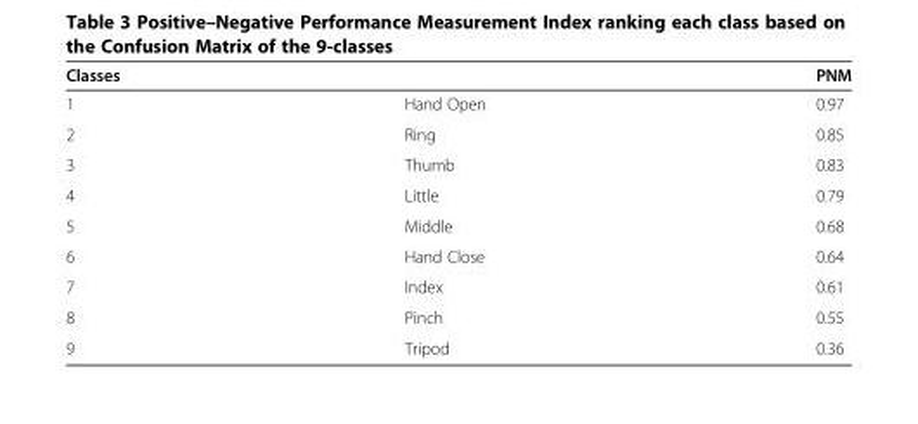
<table><thead><tr><td colspan="2">Classes</td><td rowspan="2">PNM 0.97</td></tr><tr><td>1</td><td>Hand Open</td></tr></thead><tbody><tr><td>2</td><td>Ring</td><td>0.85</td></tr><tr><td>3</td><td>Thumb</td><td>0.83</td></tr><tr><td>4</td><td>Little</td><td>0.79</td></tr><tr><td>5</td><td>Middle</td><td>0.68</td></tr><tr><td>6</td><td>Hand Close</td><td>0.64</td></tr><tr><td>7</td><td>Index</td><td>0.61</td></tr><tr><td>8</td><td>Pinch</td><td>0.55</td></tr><tr><td>9</td><td>Tripod</td><td>0.36</td></tr></tbody></table>